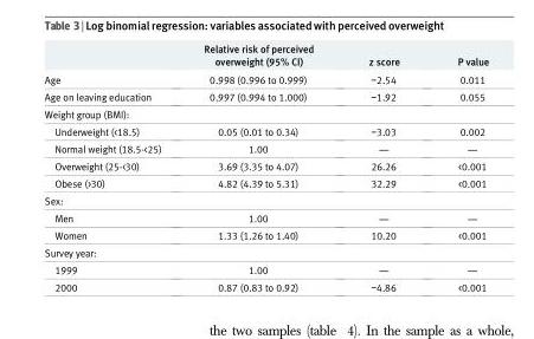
<table><thead><tr><td></td><td>Relative risk of perceived overweight (95% CI)</td><td>z score</td><td>P value</td></tr></thead><tbody><tr><td>Age</td><td>0.998 (0.996 to 0.999)</td><td>−2.54</td><td>0.011</td></tr><tr><td>Age on leaving education</td><td>0.997 (0.994 to 1.000)</td><td>−1.92</td><td>0.055</td></tr><tr><td colspan="4">Weight group (BMI):</td></tr><tr><td>Underweight (&lt;18.5)</td><td>0.05 (0.01 to 0.34)</td><td>−3.03</td><td>0.002</td></tr><tr><td>Normal weight (18.5-&lt;25)</td><td>1.00</td><td>—</td><td>—</td></tr><tr><td>Overweight (25-&lt;30)</td><td>3.69 (3.35 to 4.07)</td><td>26.26</td><td>&lt;0.001</td></tr><tr><td>Obese (&gt;30)</td><td>4.82 (4.39 to 5.31)</td><td>32.29</td><td>&lt;0.001</td></tr><tr><td colspan="4">Sex:</td></tr><tr><td>Men</td><td>1.00</td><td>—</td><td>—</td></tr><tr><td>Women</td><td>1.33 (1.26 to 1.40)</td><td>10.20</td><td>&lt;0.001</td></tr><tr><td colspan="4">Survey year:</td></tr><tr><td>1999</td><td>1.00</td><td>—</td><td>—</td></tr><tr><td>2000</td><td>0.87 (0.83 to 0.92)</td><td>−4.86</td><td>&lt;0.001</td></tr></tbody></table>